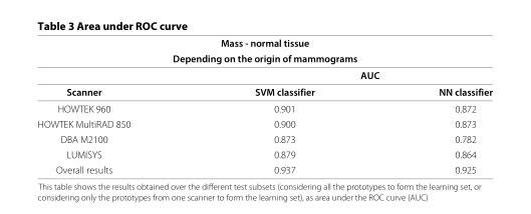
<table><thead><tr><td rowspan="2" colspan="3">Mass - normal tissue Depending on the origin of mammograms</td></tr><tr></tr><tr><td rowspan="2">Scanner</td><td colspan="2">AUC</td></tr><tr><td>SVM classifier</td><td>NN classifier</td></tr></thead><tbody><tr><td>HOWTEK 960</td><td>0.901</td><td>0.872</td></tr><tr><td>HOWTEK MultiRAD 850</td><td>0.900</td><td>0.873</td></tr><tr><td>DBA M2100</td><td>0.873</td><td>0.782</td></tr><tr><td>LUMISYS</td><td>0.879</td><td>0.864</td></tr><tr><td>Overall results</td><td>0.937</td><td>0.925</td></tr></tbody></table>